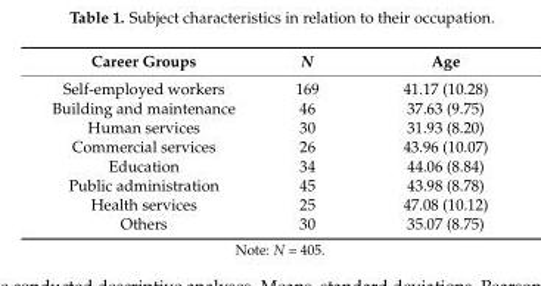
<table><thead><tr><td>Career Groups</td><td>N</td><td>Age</td></tr></thead><tbody><tr><td>Self-employed workers</td><td>169</td><td>41.17 (10.28)</td></tr><tr><td>Building and maintenance</td><td>46</td><td>37.63 (9.75)</td></tr><tr><td>Human services</td><td>30</td><td>31.93 (8.20)</td></tr><tr><td>Commercial services</td><td>26</td><td>43.96 (10.07)</td></tr><tr><td>Education</td><td>34</td><td>44.06 (8.84)</td></tr><tr><td>Public administration</td><td>45</td><td>43.98 (8.78)</td></tr><tr><td>Health services</td><td>25</td><td>47.08 (10.12)</td></tr><tr><td>Others</td><td>30</td><td>35.07 (8.75)</td></tr></tbody></table>